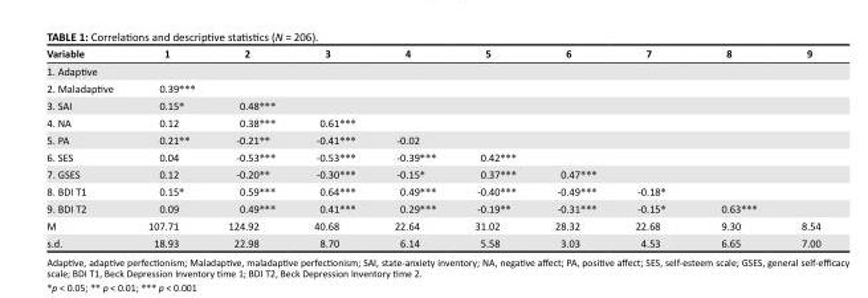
<table><thead><tr><td>Variable</td><td>1</td><td>2</td><td>3</td><td>4</td><td>5</td><td>6</td><td>7</td><td>8</td><td>9</td></tr></thead><tbody><tr><td colspan="10">1. Adaptive</td></tr><tr><td>2. Maladaptive</td><td>0.39***</td><td></td><td></td><td></td><td></td><td></td><td></td><td></td><td></td></tr><tr><td>3. SAI</td><td>0.15*</td><td>0.48***</td><td></td><td></td><td></td><td></td><td></td><td></td><td></td></tr><tr><td>4. NA</td><td>0.12</td><td>0.38***</td><td>0.61***</td><td></td><td></td><td></td><td></td><td></td><td></td></tr><tr><td>5. PA</td><td>0.21**</td><td>-0.21**</td><td>-0.41***</td><td>-0.02</td><td></td><td></td><td></td><td></td><td></td></tr><tr><td>6. SES</td><td>0.04</td><td>-0.53***</td><td>-0.53***</td><td>-0.39***</td><td>0.42***</td><td></td><td></td><td></td><td></td></tr><tr><td>7. GSES</td><td>0.12</td><td>-0.20**</td><td>-0.30***</td><td>-0.15*</td><td>0.37***</td><td>0.47***</td><td></td><td></td><td></td></tr><tr><td>8. BDI T1</td><td>0.15*</td><td>0.59***</td><td>0.64***</td><td>0.49***</td><td>-0.40***</td><td>-0.49***</td><td>-0.18*</td><td></td><td></td></tr><tr><td>9. BDI T2</td><td>0.09</td><td>0.49***</td><td>0.41***</td><td>0.29***</td><td>-0.19**</td><td>-0.31***</td><td>-0.15*</td><td>0.63***</td><td></td></tr><tr><td>M</td><td>107.71</td><td>124.92</td><td>40.68</td><td>22.64</td><td>31.02</td><td>28.32</td><td>22.68</td><td>9.30</td><td>8.54</td></tr><tr><td>s.d.</td><td>18.93</td><td>22.98</td><td>8.70</td><td>6.14</td><td>5.58</td><td>3.03</td><td>4.53</td><td>6.65</td><td>7.00</td></tr></tbody></table>